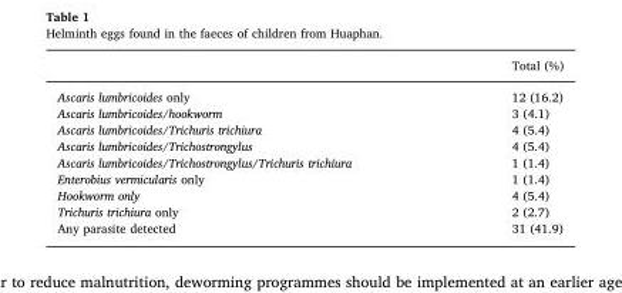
<table><thead><tr><td></td><td>Total (%)</td></tr></thead><tbody><tr><td>Ascaris lumbricoides only</td><td>12 (16.2)</td></tr><tr><td>Ascaris lumbricoides/hookworm</td><td>3 (4.1)</td></tr><tr><td>Ascaris lumbricoides/Trichuris trichiura</td><td>4 (5.4)</td></tr><tr><td>Ascaris lumbricoides/Trichostrongylus</td><td>4 (5.4)</td></tr><tr><td>Ascaris lumbricoides/Trichostrongylus/Trichuris trichiura</td><td>1 (1.4)</td></tr><tr><td>Enterobius vermicularis only</td><td>1 (1.4)</td></tr><tr><td>Hookworm only</td><td>4 (5.4)</td></tr><tr><td>Trichuris trichiura only</td><td>2 (2.7)</td></tr><tr><td>Any parasite detected</td><td>31 (41.9)</td></tr></tbody></table>